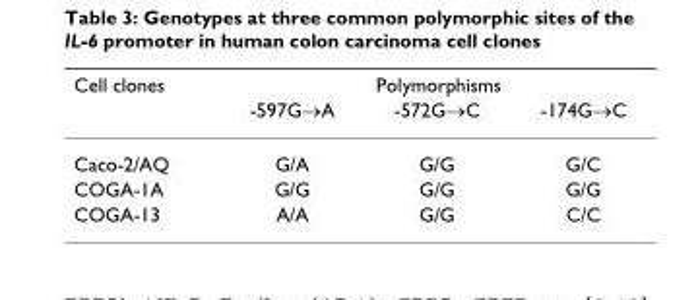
<table><thead><tr><td rowspan="2">Cell clones</td><td colspan="3">Polymorphisms</td></tr><tr><td>-597G→A</td><td>-572G→C</td><td>-174G→C</td></tr></thead><tbody><tr><td>Caco-2/AQ</td><td>G/A</td><td>G/G</td><td>G/C</td></tr><tr><td>COGA-1A</td><td>G/G</td><td>G/G</td><td>G/G</td></tr><tr><td>COGA-13</td><td>A/A</td><td>G/G</td><td>C/C</td></tr></tbody></table>